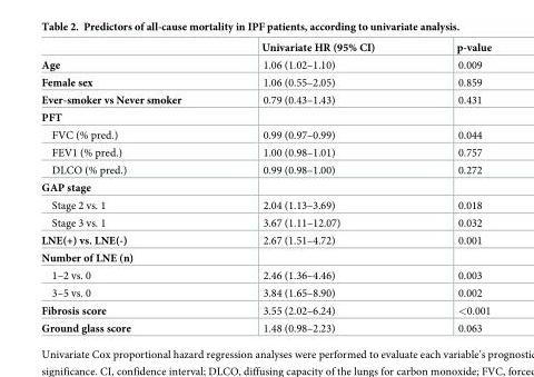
<table><thead><tr><td></td><td>Univariate HR (95% CI)</td><td>p-value</td></tr></thead><tbody><tr><td>Age</td><td>1.06 (1.02–1.10)</td><td>0.009</td></tr><tr><td>Female sex</td><td>1.06 (0.55–2.05)</td><td>0.859</td></tr><tr><td>Ever-smoker vs Never smoker</td><td>0.79 (0.43–1.43)</td><td>0.431</td></tr><tr><td colspan="3">PFT</td></tr><tr><td>FVC (% pred.)</td><td>0.99 (0.97–0.99)</td><td>0.044</td></tr><tr><td>FEV1 (% pred.)</td><td>1.00 (0.98–1.01)</td><td>0.757</td></tr><tr><td>DLCO (% pred.)</td><td>0.99 (0.98–1.00)</td><td>0.272</td></tr><tr><td colspan="3">GAP stage</td></tr><tr><td>Stage 2 vs. 1</td><td>2.04 (1.13–3.69)</td><td>0.018</td></tr><tr><td>Stage 3 vs. 1</td><td>3.67 (1.11–12.07)</td><td>0.032</td></tr><tr><td>LNE(+) vs. LNE(-)</td><td>2.67 (1.51–4.72)</td><td>0.001</td></tr><tr><td colspan="3">Number of LNE (n)</td></tr><tr><td>1–2 vs. 0</td><td>2.46 (1.36–4.46)</td><td>0.003</td></tr><tr><td>3–5 vs. 0</td><td>3.84 (1.65–8.90)</td><td>0.002</td></tr><tr><td>Fibrosis score</td><td>3.55 (2.02–6.24)</td><td>&lt;0.001</td></tr><tr><td>Ground glass score</td><td>1.48 (0.98–2.23)</td><td>0.063</td></tr></tbody></table>